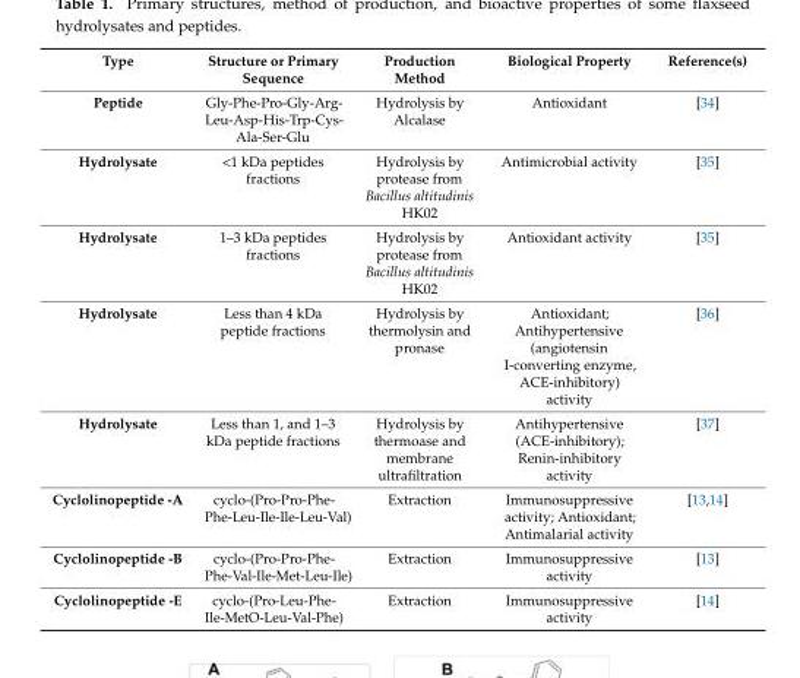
<table><thead><tr><td>Type</td><td>Structure or Primary Sequence</td><td>Production Method</td><td>Biological Property</td><td>Reference(s)</td></tr></thead><tbody><tr><td>Peptide</td><td>Gly-Phe-Pro-Gly-Arg- Leu-Asp-His-Trp-Cys- Ala-Ser-Glu</td><td>Hydrolysis by Alcalase</td><td>Antioxidant</td><td>[34]</td></tr><tr><td>Hydrolysate</td><td>&lt;1 kDa peptides fractions</td><td>Hydrolysis by protease from Bacillus altitudinis HK02</td><td>Antimicrobial activity</td><td>[35]</td></tr><tr><td>Hydrolysate</td><td>1–3 kDa peptides fractions</td><td>Hydrolysis by protease from Bacillus altitudinis HK02</td><td>Antioxidant activity</td><td>[35]</td></tr><tr><td>Hydrolysate</td><td>Less than 4 kDa peptide fractions</td><td>Hydrolysis by thermolysin and pronase</td><td>Antioxidant; Antihypertensive (angiotensin I-converting enzyme, ACE-inhibitory) activity</td><td>[36]</td></tr><tr><td>Hydrolysate</td><td>Less than 1, and 1–3 kDa peptide fractions</td><td>Hydrolysis by thermoase and membrane ultrafiltration</td><td>Antihypertensive (ACE-inhibitory); Renin-inhibitory activity</td><td>[37]</td></tr><tr><td>Cyclolinopeptide -A</td><td>cyclo-(Pro-Pro-Phe- Phe-Leu-Ile-Ile-Leu-Val)</td><td>Extraction</td><td>Immunosuppressive activity; Antioxidant; Antimalarial activity</td><td>[13,14]</td></tr><tr><td>Cyclolinopeptide -B</td><td>cyclo-(Pro-Pro-Phe- Phe-Val-Ile-Met-Leu-Ile)</td><td>Extraction</td><td>Immunosuppressive activity</td><td>[13]</td></tr><tr><td>Cyclolinopeptide -E</td><td>cyclo-(Pro-Leu-Phe- Ile-MetO-Leu-Val-Phe)</td><td>Extraction</td><td>Immunosuppressive activity</td><td>[14]</td></tr></tbody></table>